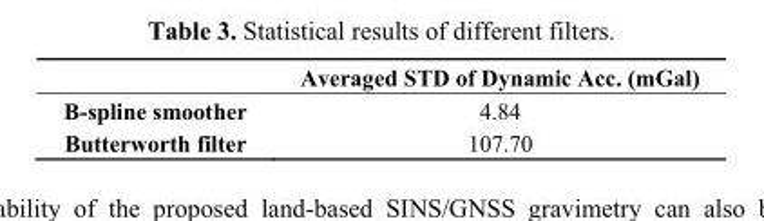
<table><thead><tr><td></td><td>Averaged STD of Dynamic Acc. (mGal)</td></tr></thead><tbody><tr><td>B-spline smoother</td><td>4.84</td></tr><tr><td>Butterworth filter</td><td>107.70</td></tr></tbody></table>